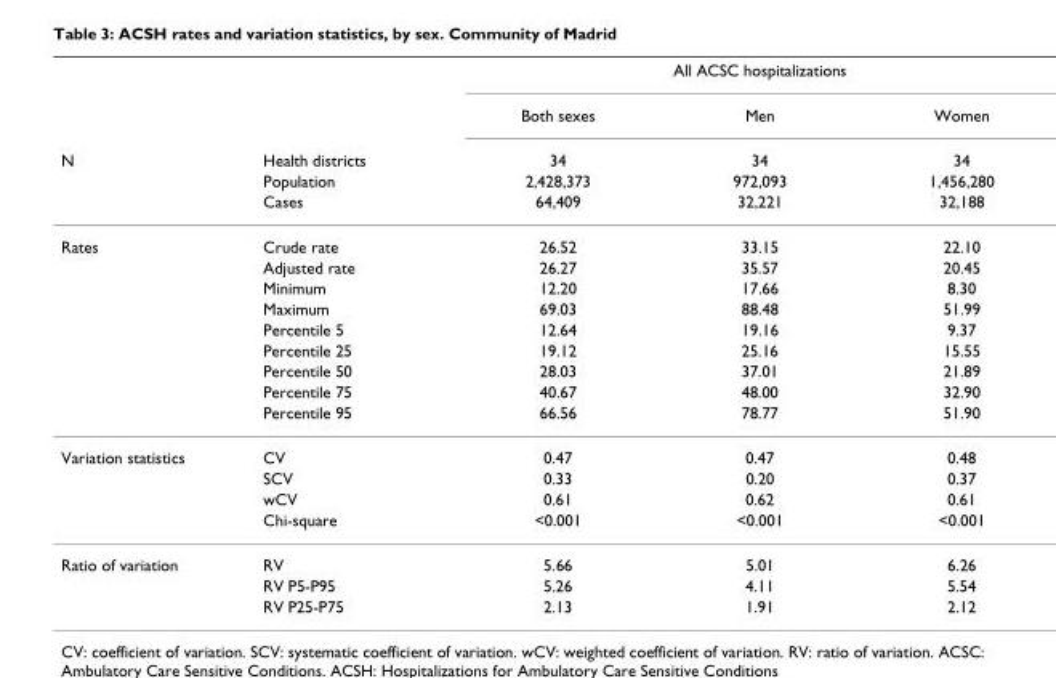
<table><thead><tr><td rowspan="5">N</td><td rowspan="5">Health districts Population Cases</td><td colspan="3">All ACSC hospitalizations</td></tr><tr><td rowspan="4">Both sexes 34 2,428,373 64,409</td><td rowspan="4">Men 34 972,093 32,221</td><td rowspan="4">Women 34 1,456,280 32,188</td></tr><tr></tr><tr></tr><tr></tr></thead><tbody><tr><td rowspan="9">Rates</td><td>Crude rate</td><td>26.52</td><td>33.15</td><td>22.10</td></tr><tr><td>Adjusted rate</td><td>26.27</td><td>35.57</td><td>20.45</td></tr><tr><td>Minimum</td><td>12.20</td><td>17.66</td><td>8.30</td></tr><tr><td>Maximum</td><td>69.03</td><td>88.48</td><td>51.99</td></tr><tr><td>Percentile 5</td><td>12.64</td><td>19.16</td><td>9.37</td></tr><tr><td>Percentile 25</td><td>19.12</td><td>25.16</td><td>15.55</td></tr><tr><td>Percentile 50</td><td>28.03</td><td>37.01</td><td>21.89</td></tr><tr><td>Percentile 75</td><td>40.67</td><td>48.00</td><td>32.90</td></tr><tr><td>Percentile 95</td><td>66.56</td><td>78.77</td><td>51.90</td></tr><tr><td rowspan="4">Variation statistics</td><td>CV</td><td>0.47</td><td>0.47</td><td>0.48</td></tr><tr><td>SCV</td><td>0.33</td><td>0.20</td><td>0.37</td></tr><tr><td>wCV</td><td>0.61</td><td>0.62</td><td>0.61</td></tr><tr><td>Chi-square</td><td>&lt;0.001</td><td>&lt;0.001</td><td>&lt;0.001</td></tr><tr><td rowspan="3">Ratio of variation</td><td>RV</td><td>5.66</td><td>5.01</td><td>6.26</td></tr><tr><td>RV P5-P95</td><td>5.26</td><td>4.11</td><td>5.54</td></tr><tr><td>RV P25-P75</td><td>2.13</td><td>1.91</td><td>2.12</td></tr></tbody></table>